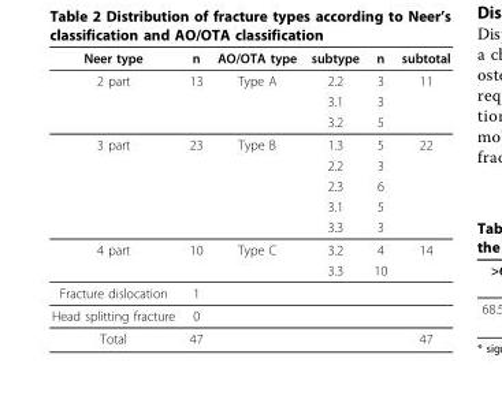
<table><thead><tr><td>Neer type</td><td>n</td><td>AO/OTA type</td><td>subtype</td><td>n</td><td>subtotal</td></tr></thead><tbody><tr><td rowspan="3">2 part</td><td>13</td><td>Type A</td><td>2.2</td><td>3</td><td>11</td></tr><tr><td></td><td></td><td>3.1</td><td>3</td><td></td></tr><tr><td></td><td></td><td>3.2</td><td>5</td><td></td></tr><tr><td rowspan="5">3 part</td><td>23</td><td>Type B</td><td>1.3</td><td>5</td><td>22</td></tr><tr><td></td><td></td><td>2.2</td><td>3</td><td></td></tr><tr><td></td><td></td><td>2.3</td><td>6</td><td></td></tr><tr><td></td><td></td><td>3.1</td><td>5</td><td></td></tr><tr><td></td><td></td><td>3.3</td><td>3</td><td></td></tr><tr><td rowspan="2">4 part</td><td>10</td><td>Type C</td><td>3.2</td><td>4</td><td>14</td></tr><tr><td></td><td></td><td>3.3</td><td>10</td><td></td></tr><tr><td>Fracture dislocation</td><td>1</td><td></td><td></td><td></td><td></td></tr><tr><td>Head splitting fracture</td><td>0</td><td></td><td></td><td></td><td></td></tr><tr><td>Total</td><td>47</td><td></td><td></td><td></td><td>47</td></tr></tbody></table>